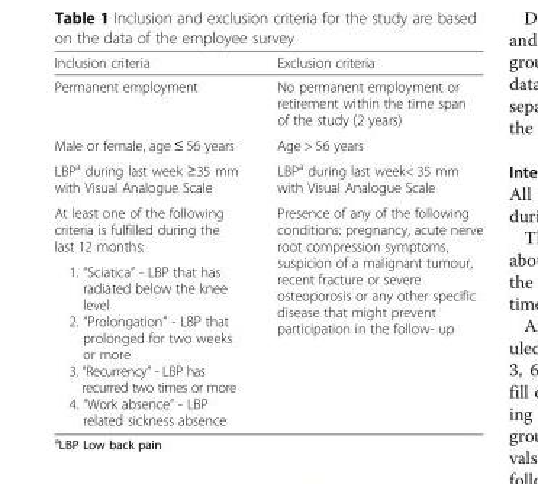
<table><thead><tr><td>Inclusion criteria</td><td>Exclusion criteria</td></tr></thead><tbody><tr><td>Permanent employment</td><td>No permanent employment or retirement within the time span of the study (2 years)</td></tr><tr><td>Male or female, age ≤ 56 years</td><td>Age &gt; 56 years</td></tr><tr><td>LBP<sup>a</sup> during last week ≥35 mm with Visual Analogue Scale</td><td>LBP<sup>a</sup> during last week&lt; 35 mm with Visual Analogue Scale</td></tr><tr><td>At least one of the following criteria is fulfilled during the last 12 months:</td><td rowspan="2">Presence of any of the following conditions: pregnancy, acute nerve root compression symptoms, suspicion of a malignant tumour, recent fracture or severe osteoporosis or any other specific disease that might prevent participation in the follow- up</td></tr><tr><td>1. “Sciatica” - LBP that has radiated below the knee level 2. “Prolongation” - LBP that prolonged for two weeks or more 3. “Recurrency” - LBP has recurred two times or more 4. “Work absence” - LBP related sickness absence</td></tr></tbody></table>